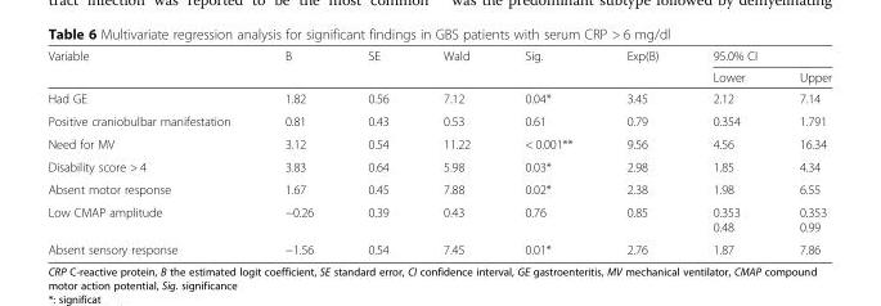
<table><thead><tr><td rowspan="2">Variable</td><td rowspan="2">B</td><td rowspan="2">SE</td><td rowspan="2">Wald</td><td rowspan="2">Sig.</td><td rowspan="2">Exp(B)</td><td colspan="2">95.0% CI</td></tr><tr><td>Lower</td><td>Upper</td></tr></thead><tbody><tr><td>Had GE</td><td>1.82</td><td>0.56</td><td>7.12</td><td>0.04*</td><td>3.45</td><td>2.12</td><td>7.14</td></tr><tr><td>Positive craniobulbar manifestation</td><td>0.81</td><td>0.43</td><td>0.53</td><td>0.61</td><td>0.79</td><td>0.354</td><td>1.791</td></tr><tr><td>Need for MV</td><td>3.12</td><td>0.54</td><td>11.22</td><td>&lt; 0.001**</td><td>9.56</td><td>4.56</td><td>16.34</td></tr><tr><td>Disability score &gt; 4</td><td>3.83</td><td>0.64</td><td>5.98</td><td>0.03*</td><td>2.98</td><td>1.85</td><td>4.34</td></tr><tr><td>Absent motor response</td><td>1.67</td><td>0.45</td><td>7.88</td><td>0.02*</td><td>2.38</td><td>1.98</td><td>6.55</td></tr><tr><td>Low CMAP amplitude</td><td>−0.26</td><td>0.39</td><td>0.43</td><td>0.76</td><td>0.85</td><td>0.353 0.48</td><td>0.353 0.99</td></tr><tr><td>Absent sensory response</td><td>−1.56</td><td>0.54</td><td>7.45</td><td>0.01*</td><td>2.76</td><td>1.87</td><td>7.86</td></tr></tbody></table>